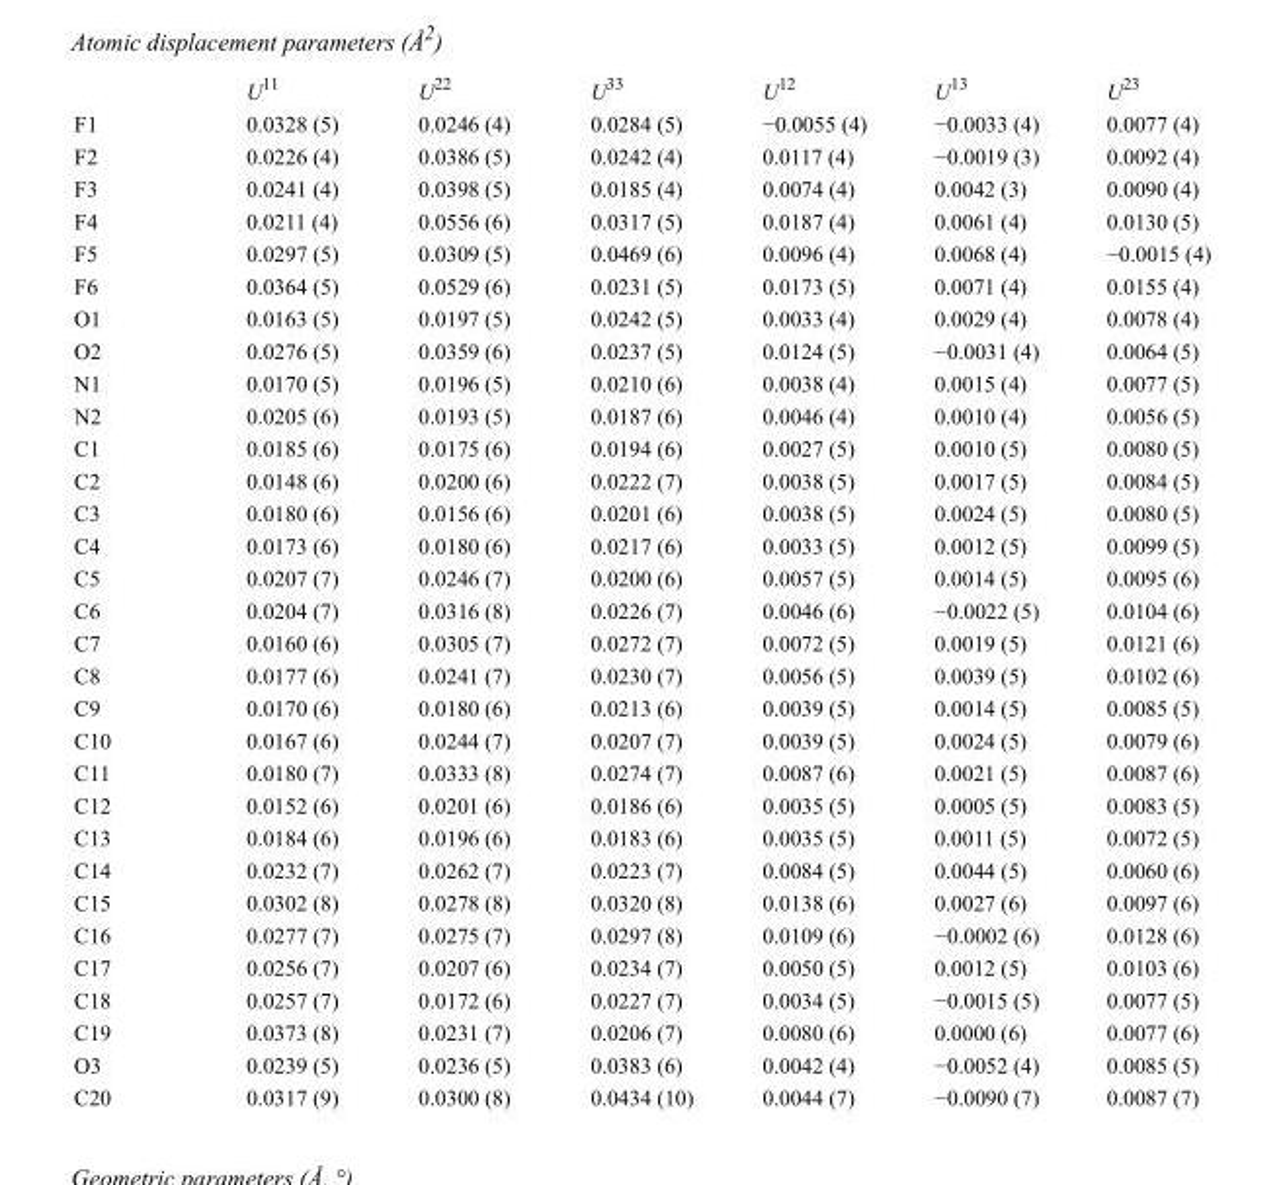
<table><thead><tr><td></td><td>U<sup>11</sup></td><td>U<sup>22</sup></td><td>U<sup>33</sup></td><td>U<sup>12</sup></td><td>U<sup>13</sup></td><td>U<sup>23</sup></td></tr></thead><tbody><tr><td>F1</td><td>0.0328 (5)</td><td>0.0246 (4)</td><td>0.0284 (5)</td><td>−0.0055 (4)</td><td>−0.0033 (4)</td><td>0.0077 (4)</td></tr><tr><td>F2</td><td>0.0226 (4)</td><td>0.0386 (5)</td><td>0.0242 (4)</td><td>0.0117 (4)</td><td>−0.0019 (3)</td><td>0.0092 (4)</td></tr><tr><td>F3</td><td>0.0241 (4)</td><td>0.0398 (5)</td><td>0.0185 (4)</td><td>0.0074 (4)</td><td>0.0042 (3)</td><td>0.0090 (4)</td></tr><tr><td>F4</td><td>0.0211 (4)</td><td>0.0556 (6)</td><td>0.0317 (5)</td><td>0.0187 (4)</td><td>0.0061 (4)</td><td>0.0130 (5)</td></tr><tr><td>F5</td><td>0.0297 (5)</td><td>0.0309 (5)</td><td>0.0469 (6)</td><td>0.0096 (4)</td><td>0.0068 (4)</td><td>−0.0015 (4)</td></tr><tr><td>F6</td><td>0.0364 (5)</td><td>0.0529 (6)</td><td>0.0231 (5)</td><td>0.0173 (5)</td><td>0.0071 (4)</td><td>0.0155 (4)</td></tr><tr><td>O1</td><td>0.0163 (5)</td><td>0.0197 (5)</td><td>0.0242 (5)</td><td>0.0033 (4)</td><td>0.0029 (4)</td><td>0.0078 (4)</td></tr><tr><td>O2</td><td>0.0276 (5)</td><td>0.0359 (6)</td><td>0.0237 (5)</td><td>0.0124 (5)</td><td>−0.0031 (4)</td><td>0.0064 (5)</td></tr><tr><td>N1</td><td>0.0170 (5)</td><td>0.0196 (5)</td><td>0.0210 (6)</td><td>0.0038 (4)</td><td>0.0015 (4)</td><td>0.0077 (5)</td></tr><tr><td>N2</td><td>0.0205 (6)</td><td>0.0193 (5)</td><td>0.0187 (6)</td><td>0.0046 (4)</td><td>0.0010 (4)</td><td>0.0056 (5)</td></tr><tr><td>C1</td><td>0.0185 (6)</td><td>0.0175 (6)</td><td>0.0194 (6)</td><td>0.0027 (5)</td><td>0.0010 (5)</td><td>0.0080 (5)</td></tr><tr><td>C2</td><td>0.0148 (6)</td><td>0.0200 (6)</td><td>0.0222 (7)</td><td>0.0038 (5)</td><td>0.0017 (5)</td><td>0.0084 (5)</td></tr><tr><td>C3</td><td>0.0180 (6)</td><td>0.0156 (6)</td><td>0.0201 (6)</td><td>0.0038 (5)</td><td>0.0024 (5)</td><td>0.0080 (5)</td></tr><tr><td>C4</td><td>0.0173 (6)</td><td>0.0180 (6)</td><td>0.0217 (6)</td><td>0.0033 (5)</td><td>0.0012 (5)</td><td>0.0099 (5)</td></tr><tr><td>C5</td><td>0.0207 (7)</td><td>0.0246 (7)</td><td>0.0200 (6)</td><td>0.0057 (5)</td><td>0.0014 (5)</td><td>0.0095 (6)</td></tr><tr><td>C6</td><td>0.0204 (7)</td><td>0.0316 (8)</td><td>0.0226 (7)</td><td>0.0046 (6)</td><td>−0.0022 (5)</td><td>0.0104 (6)</td></tr><tr><td>C7</td><td>0.0160 (6)</td><td>0.0305 (7)</td><td>0.0272 (7)</td><td>0.0072 (5)</td><td>0.0019 (5)</td><td>0.0121 (6)</td></tr><tr><td>C8</td><td>0.0177 (6)</td><td>0.0241 (7)</td><td>0.0230 (7)</td><td>0.0056 (5)</td><td>0.0039 (5)</td><td>0.0102 (6)</td></tr><tr><td>C9</td><td>0.0170 (6)</td><td>0.0180 (6)</td><td>0.0213 (6)</td><td>0.0039 (5)</td><td>0.0014 (5)</td><td>0.0085 (5)</td></tr><tr><td>C10</td><td>0.0167 (6)</td><td>0.0244 (7)</td><td>0.0207 (7)</td><td>0.0039 (5)</td><td>0.0024 (5)</td><td>0.0079 (6)</td></tr><tr><td>C11</td><td>0.0180 (7)</td><td>0.0333 (8)</td><td>0.0274 (7)</td><td>0.0087 (6)</td><td>0.0021 (5)</td><td>0.0087 (6)</td></tr><tr><td>C12</td><td>0.0152 (6)</td><td>0.0201 (6)</td><td>0.0186 (6)</td><td>0.0035 (5)</td><td>0.0005 (5)</td><td>0.0083 (5)</td></tr><tr><td>C13</td><td>0.0184 (6)</td><td>0.0196 (6)</td><td>0.0183 (6)</td><td>0.0035 (5)</td><td>0.0011 (5)</td><td>0.0072 (5)</td></tr><tr><td>C14</td><td>0.0232 (7)</td><td>0.0262 (7)</td><td>0.0223 (7)</td><td>0.0084 (5)</td><td>0.0044 (5)</td><td>0.0060 (6)</td></tr><tr><td>C15</td><td>0.0302 (8)</td><td>0.0278 (8)</td><td>0.0320 (8)</td><td>0.0138 (6)</td><td>0.0027 (6)</td><td>0.0097 (6)</td></tr><tr><td>C16</td><td>0.0277 (7)</td><td>0.0275 (7)</td><td>0.0297 (8)</td><td>0.0109 (6)</td><td>−0.0002 (6)</td><td>0.0128 (6)</td></tr><tr><td>C17</td><td>0.0256 (7)</td><td>0.0207 (6)</td><td>0.0234 (7)</td><td>0.0050 (5)</td><td>0.0012 (5)</td><td>0.0103 (6)</td></tr><tr><td>C18</td><td>0.0257 (7)</td><td>0.0172 (6)</td><td>0.0227 (7)</td><td>0.0034 (5)</td><td>−0.0015 (5)</td><td>0.0077 (5)</td></tr><tr><td>C19</td><td>0.0373 (8)</td><td>0.0231 (7)</td><td>0.0206 (7)</td><td>0.0080 (6)</td><td>0.0000 (6)</td><td>0.0077 (6)</td></tr><tr><td>O3</td><td>0.0239 (5)</td><td>0.0236 (5)</td><td>0.0383 (6)</td><td>0.0042 (4)</td><td>−0.0052 (4)</td><td>0.0085 (5)</td></tr><tr><td>C20</td><td>0.0317 (9)</td><td>0.0300 (8)</td><td>0.0434 (10)</td><td>0.0044 (7)</td><td>−0.0090 (7)</td><td>0.0087 (7)</td></tr></tbody></table>